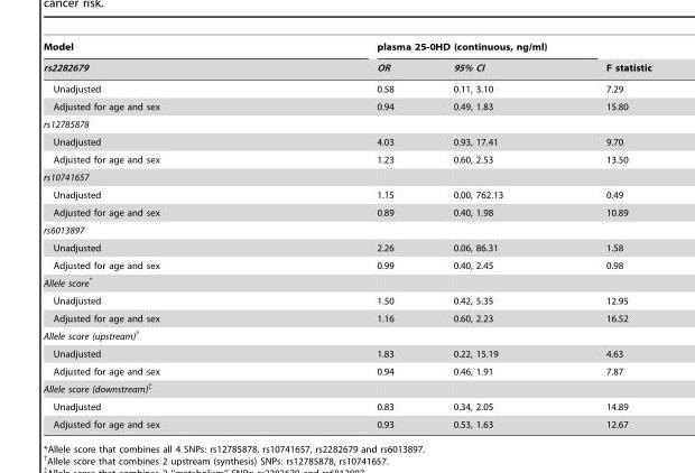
<table><thead><tr><td rowspan="2">Model rs2282679</td><td colspan="2">plasma 25-0HD (continuous, ng/ml)</td><td rowspan="2">F statistic</td></tr><tr><td>OR</td><td>95% CI</td></tr></thead><tbody><tr><td>Unadjusted</td><td>0.58</td><td>0.11, 3.10</td><td>7.29</td></tr><tr><td>Adjusted for age and sex</td><td>0.94</td><td>0.49, 1.83</td><td>15.80</td></tr><tr><td colspan="4">rs12785878</td></tr><tr><td>Unadjusted</td><td>4.03</td><td>0.93, 17.41</td><td>9.70</td></tr><tr><td>Adjusted for age and sex</td><td>1.23</td><td>0.60, 2.53</td><td>13.50</td></tr><tr><td colspan="4">rs10741657</td></tr><tr><td>Unadjusted</td><td>1.15</td><td>0.00, 762.13</td><td>0.49</td></tr><tr><td>Adjusted for age and sex</td><td>0.89</td><td>0.40, 1.98</td><td>10.89</td></tr><tr><td colspan="4">rs6013897</td></tr><tr><td>Unadjusted</td><td>2.26</td><td>0.06, 86.31</td><td>1.58</td></tr><tr><td>Adjusted for age and sex</td><td>0.99</td><td>0.40, 2.45</td><td>0.98</td></tr><tr><td colspan="4">Allele score*</td></tr><tr><td>Unadjusted</td><td>1.50</td><td>0.42, 5.35</td><td>12.95</td></tr><tr><td>Adjusted for age and sex</td><td>1.16</td><td>0.60, 2.23</td><td>16.52</td></tr><tr><td colspan="4">Allele score (upstream)†</td></tr><tr><td>Unadjusted</td><td>1.83</td><td>0.22, 15.19</td><td>4.63</td></tr><tr><td>Adjusted for age and sex</td><td>0.94</td><td>0.46, 1.91</td><td>7.87</td></tr><tr><td colspan="4">Allele score (downstream)‡</td></tr><tr><td>Unadjusted</td><td>0.83</td><td>0.34, 2.05</td><td>14.89</td></tr><tr><td>Adjusted for age and sex</td><td>0.93</td><td>0.53, 1.63</td><td>12.67</td></tr></tbody></table>